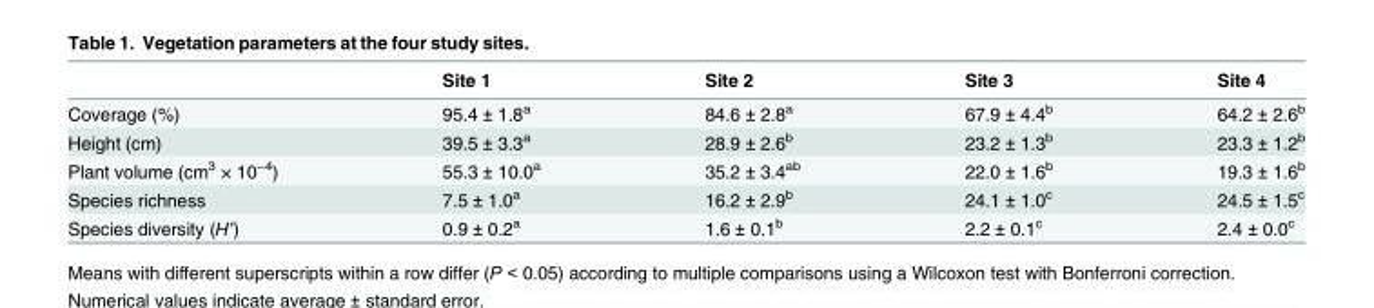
<table><thead><tr><td></td><td>Site 1</td><td>Site 2</td><td>Site 3</td><td>Site 4</td></tr></thead><tbody><tr><td>Coverage (%)</td><td>95.4 ± 1.8<sup>a</sup></td><td>84.6 ± 2.8<sup>a</sup></td><td>67.9 ± 4.4<sup>b</sup></td><td>64.2 ± 2.6<sup>b</sup></td></tr><tr><td>Height (cm)</td><td>39.5 ± 3.3<sup>a</sup></td><td>28.9 ± 2.6<sup>b</sup></td><td>23.2 ± 1.3<sup>b</sup></td><td>23.3 ± 1.2<sup>b</sup></td></tr><tr><td>Plant volume (cm<sup>3</sup> × 10<sup>−4</sup>)</td><td>55.3 ± 10.0<sup>a</sup></td><td>35.2 ± 3.4<sup>ab</sup></td><td>22.0 ± 1.6<sup>b</sup></td><td>19.3 ± 1.6<sup>b</sup></td></tr><tr><td>Species richness</td><td>7.5 ± 1.0<sup>a</sup></td><td>16.2 ± 2.9<sup>b</sup></td><td>24.1 ± 1.0<sup>c</sup></td><td>24.5 ± 1.5<sup>c</sup></td></tr><tr><td>Species diversity (H’)</td><td>0.9 ± 0.2<sup>a</sup></td><td>1.6 ± 0.1<sup>b</sup></td><td>2.2 ± 0.1<sup>c</sup></td><td>2.4 ± 0.0<sup>c</sup></td></tr></tbody></table>